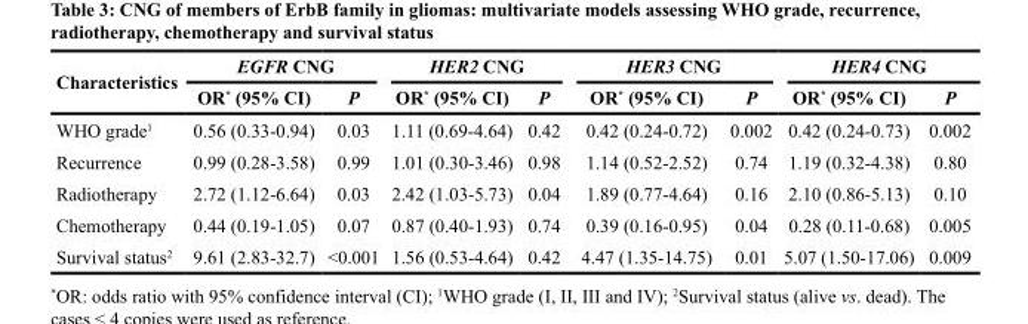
<table><thead><tr><td rowspan="2">Characteristics</td><td colspan="2">EGFR CNG</td><td colspan="2">HER2 CNG</td><td colspan="2">HER3 CNG</td><td colspan="2">HER4 CNG</td></tr><tr><td>OR* (95% CI)</td><td>P</td><td>OR* (95% CI)</td><td>P</td><td>OR* (95% CI)</td><td>P</td><td>OR* (95% CI)</td><td>P</td></tr></thead><tbody><tr><td>WHO grade<sup>1</sup></td><td>0.56 (0.33-0.94)</td><td>0.03</td><td>1.11 (0.69-4.64)</td><td>0.42</td><td>0.42 (0.24-0.72)</td><td>0.002</td><td>0.42 (0.24-0.73)</td><td>0.002</td></tr><tr><td>Recurrence</td><td>0.99 (0.28-3.58)</td><td>0.99</td><td>1.01 (0.30-3.46)</td><td>0.98</td><td>1.14 (0.52-2.52)</td><td>0.74</td><td>1.19 (0.32-4.38)</td><td>0.80</td></tr><tr><td>Radiotherapy</td><td>2.72 (1.12-6.64)</td><td>0.03</td><td>2.42 (1.03-5.73)</td><td>0.04</td><td>1.89 (0.77-4.64)</td><td>0.16</td><td>2.10 (0.86-5.13)</td><td>0.10</td></tr><tr><td>Chemotherapy</td><td>0.44 (0.19-1.05)</td><td>0.07</td><td>0.87 (0.40-1.93)</td><td>0.74</td><td>0.39 (0.16-0.95)</td><td>0.04</td><td>0.28 (0.11-0.68)</td><td>0.005</td></tr><tr><td>Survival status<sup>2</sup></td><td>9.61 (2.83-32.7)</td><td>&lt;0.001</td><td>1.56 (0.53-4.64)</td><td>0.42</td><td>4.47 (1.35-14.75)</td><td>0.01</td><td>5.07 (1.50-17.06)</td><td>0.009</td></tr></tbody></table>